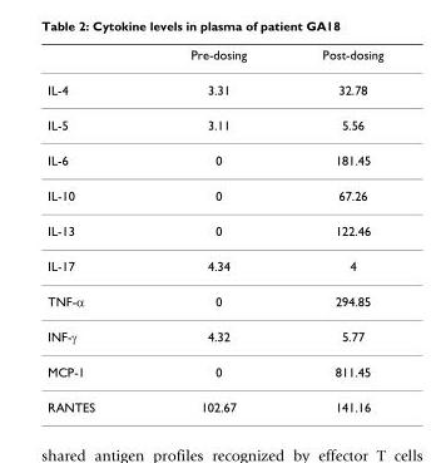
<table><thead><tr><td></td><td>Pre-dosing</td><td>Post-dosing</td></tr></thead><tbody><tr><td>IL-4</td><td>3.31</td><td>32.78</td></tr><tr><td>IL-5</td><td>3.11</td><td>5.56</td></tr><tr><td>IL-6</td><td>0</td><td>181.45</td></tr><tr><td>IL-10</td><td>0</td><td>67.26</td></tr><tr><td>IL-13</td><td>0</td><td>122.46</td></tr><tr><td>IL-17</td><td>4.34</td><td>4</td></tr><tr><td>TNF-α</td><td>0</td><td>294.85</td></tr><tr><td>INF-γ</td><td>4.32</td><td>5.77</td></tr><tr><td>MCP-1</td><td>0</td><td>811.45</td></tr><tr><td>RANTES</td><td>102.67</td><td>141.16</td></tr></tbody></table>